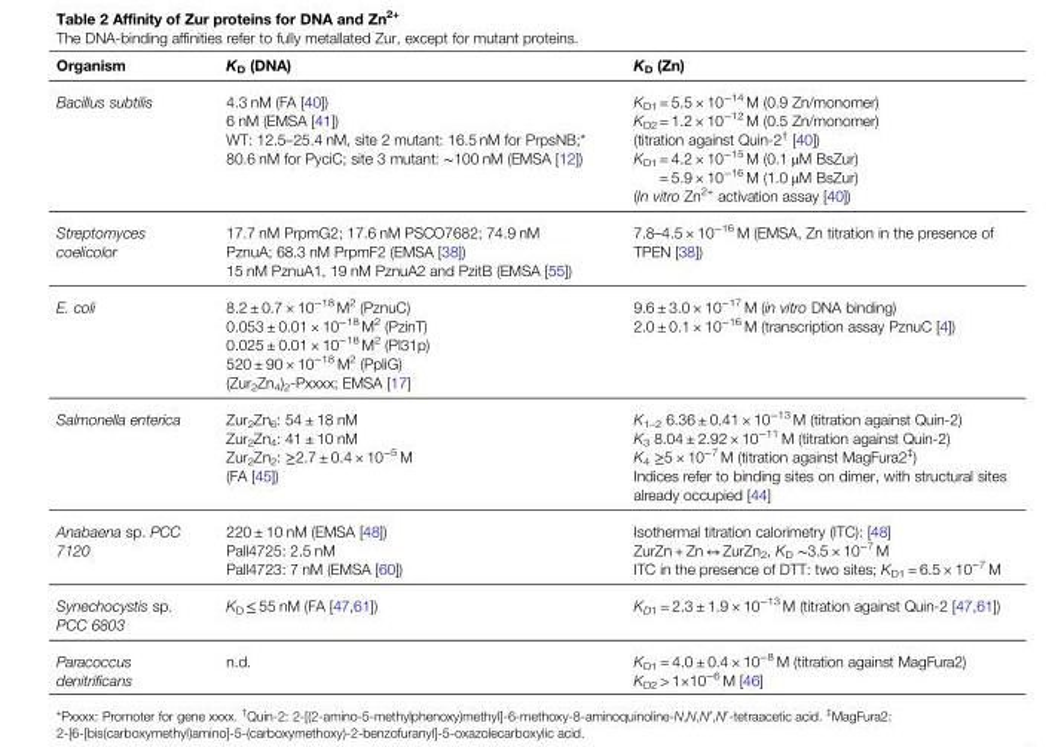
<table><thead><tr><td>Organism</td><td>K<sub>D</sub> (DNA)</td><td>K<sub>D</sub> (Zn)</td></tr></thead><tbody><tr><td>Bacillus subtilis</td><td>4.3 nM (FA [40]) 6 nM (EMSA [41]) WT: 12.5–25.4 nM, site 2 mutant: 16.5 nM for PrpsNB;* 80.6 nM for PyciC; site 3 mutant: ∼100 nM (EMSA [12])</td><td>K<sub>D1</sub>= 5.5 × 10<sup>−14</sup> M (0.9 Zn/monomer) K<sub>D2</sub>= 1.2 × 10<sup>−12</sup> M (0.5 Zn/monomer) (titration against Quin-2<sup>†</sup> [40]) K<sub>D1</sub>= 4.2 × 10<sup>−15</sup> M (0.1 μM BsZur) = 5.9 × 10<sup>−16</sup> M (1.0 μM BsZur) (In vitro Zn<sup>2+</sup> activation assay [40])</td></tr><tr><td>Streptomyces coelicolor</td><td>17.7 nM PrpmG2; 17.6 nM PSCO7682; 74.9 nM PznuA; 68.3 nM PrpmF2 (EMSA [38]) 15 nM PznuA1, 19 nM PznuA2 and PzitB (EMSA [55])</td><td>7.8–4.5 × 10<sup>−16</sup> M (EMSA, Zn titration in the presence of TPEN [38])</td></tr><tr><td>E. coli</td><td>8.2 ± 0.7 × 10<sup>−18</sup> M<sup>2</sup> (PznuC) 0.053 ± 0.01 × 10<sup>−18</sup> M<sup>2</sup> (PzinT) 0.025 ± 0.01 × 10<sup>−18</sup> M<sup>2</sup> (Pl31p) 520 ± 90 × 10<sup>−18</sup> M<sup>2</sup> (PpliG) (Zur<sub>2</sub>Zn<sub>4</sub>)<sub>2</sub>-Pxxxx; EMSA [17]</td><td>9.6 ± 3.0 × 10<sup>−17</sup> M (in vitro DNA binding) 2.0 ± 0.1 × 10<sup>−16</sup> M (transcription assay PznuC [4])</td></tr><tr><td>Salmonella enterica</td><td>Zur<sub>2</sub>Zn<sub>6</sub>: 54 ± 18 nM Zur<sub>2</sub>Zn<sub>4</sub>: 41 ± 10 nM Zur<sub>2</sub>Zn<sub>2</sub>: ≥2.7 ± 0.4 × 10<sup>−5</sup> M (FA [45])</td><td>K<sub>1–2</sub> 6.36 ± 0.41 × 10<sup>−13</sup> M (titration against Quin-2) K<sub>3</sub> 8.04 ± 2.92 × 10<sup>−11</sup> M (titration against Quin-2) K<sub>4</sub> ≥5 × 10<sup>−7</sup> M (titration against MagFura2<sup>‡</sup>) Indices refer to binding sites on dimer, with structural sites already occupied [44]</td></tr><tr><td>Anabaena sp. PCC 7120</td><td>220 ± 10 nM (EMSA [48]) Pall4725: 2.5 nM Pall4723: 7 nM (EMSA [60])</td><td>Isothermal titration calorimetry (ITC): [48] ZurZn + Zn ↔ ZurZn<sub>2</sub>, K<sub>D</sub> ∼3.5 × 10<sup>−7</sup> M ITC in the presence of DTT: two sites; K<sub>D1</sub> = 6.5 × 10<sup>−7</sup> M</td></tr><tr><td>Synechocystis sp. PCC 6803</td><td>K<sub>D</sub> ≤ 55 nM (FA [47,61])</td><td>K<sub>D1</sub> = 2.3 ± 1.9 × 10<sup>−13</sup> M (titration against Quin-2 [47,61])</td></tr><tr><td>Paracoccus denitrificans</td><td>n.d.</td><td>K<sub>D1</sub> = 4.0 ± 0.4 × 10<sup>−8</sup> M (titration against MagFura2) K<sub>D2</sub> &gt; 1×10<sup>−6</sup> M [46]</td></tr></tbody></table>